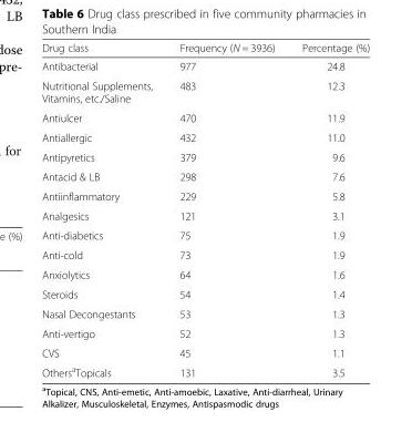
<table><thead><tr><td>Drug class</td><td>Frequency (N = 3936)</td><td>Percentage (%)</td></tr></thead><tbody><tr><td>Antibacterial</td><td>977</td><td>24.8</td></tr><tr><td>Nutritional Supplements, Vitamins, etc./Saline</td><td>483</td><td>12.3</td></tr><tr><td>Antiulcer</td><td>470</td><td>11.9</td></tr><tr><td>Antiallergic</td><td>432</td><td>11.0</td></tr><tr><td>Antipyretics</td><td>379</td><td>9.6</td></tr><tr><td>Antacid &amp; LB</td><td>298</td><td>7.6</td></tr><tr><td>Antiinflammatory</td><td>229</td><td>5.8</td></tr><tr><td>Analgesics</td><td>121</td><td>3.1</td></tr><tr><td>Anti-diabetics</td><td>75</td><td>1.9</td></tr><tr><td>Anti-cold</td><td>73</td><td>1.9</td></tr><tr><td>Anxiolytics</td><td>64</td><td>1.6</td></tr><tr><td>Steroids</td><td>54</td><td>1.4</td></tr><tr><td>Nasal Decongestants</td><td>53</td><td>1.3</td></tr><tr><td>Anti-vertigo</td><td>52</td><td>1.3</td></tr><tr><td>CVS</td><td>45</td><td>1.1</td></tr><tr><td>Others<sup>a</sup>Topicals</td><td>131</td><td>3.5</td></tr></tbody></table>